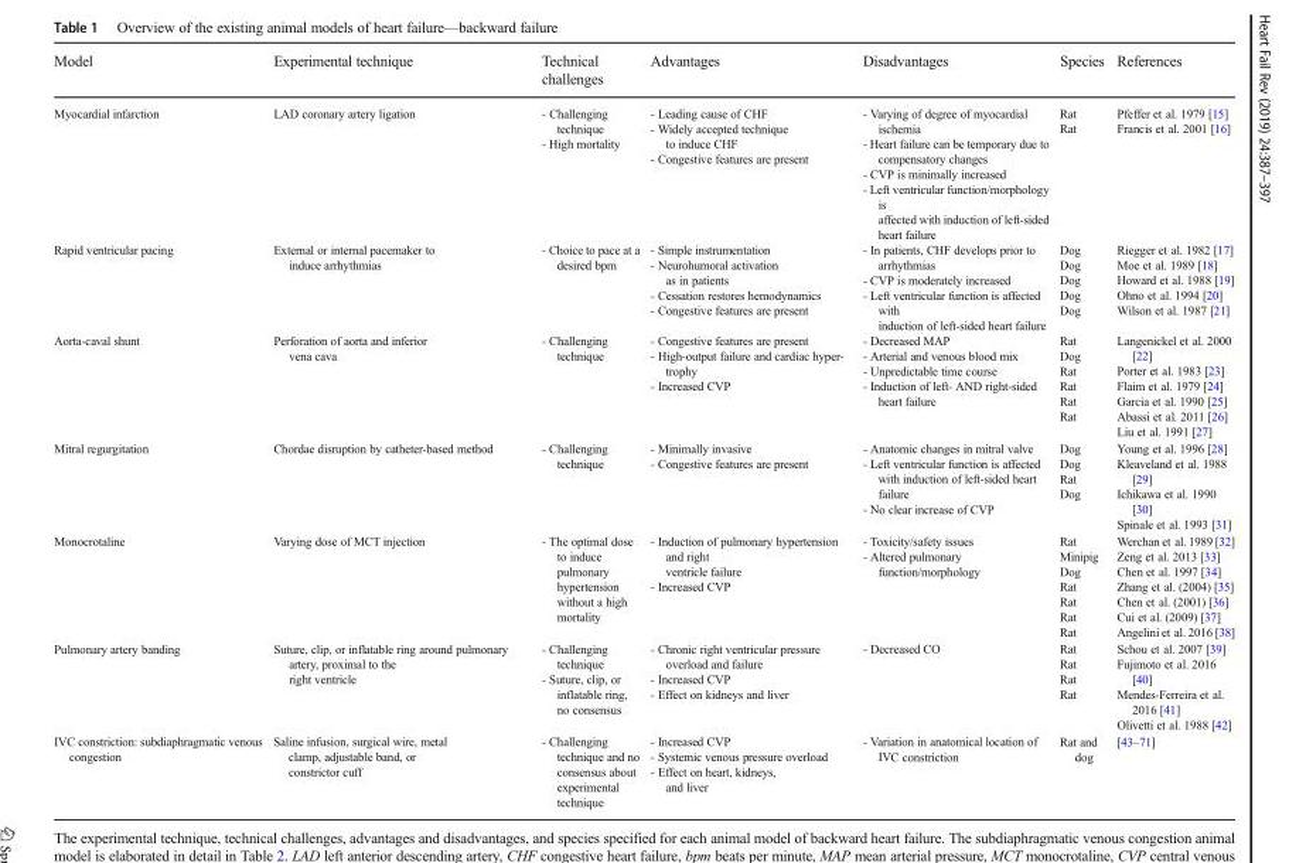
<table><thead><tr><td>Model</td><td>Experimental technique</td><td>Technical challenges</td><td>Advantages</td><td>Disadvantages</td><td>Species</td><td>References</td></tr></thead><tbody><tr><td>Myocardial infarction</td><td>LAD coronary artery ligation</td><td>- Challenging technique - High mortality</td><td>- Leading cause of CHF - Widely accepted technique to induce CHF - Congestive features are present</td><td>- Varying of degree of myocardial ischemia - Heart failure can be temporary due to compensatory changes - CVP is minimally increased - Left ventricular function/morphology is affected with induction of left-sided heart failure</td><td>Rat Rat</td><td>Pfeffer et al. 1979 [15] Francis et al. 2001 [16]</td></tr><tr><td>Rapid ventricular pacing</td><td>External or internal pacemaker to induce arrhythmias</td><td>- Choice to pace at a desired bpm</td><td>- Simple instrumentation - Neurohumoral activation as in patients - Cessation restores hemodynamics - Congestive features are present</td><td>- In patients, CHF develops prior to arrhythmias - CVP is moderately increased - Left ventricular function is affected with induction of left-sided heart failure</td><td>Dog Dog Dog Dog Dog</td><td>Riegger et al. 1982 [17] Moe et al. 1989 [18] Howard et al. 1988 [19] Ohno et al. 1994 [20] Wilson et al. 1987 [21]</td></tr><tr><td>Aorta-caval shunt</td><td>Perforation of aorta and inferior vena cava</td><td>- Challenging technique</td><td>- Congestive features are present - High-output failure and cardiac hyper- trophy - Increased CVP</td><td>- Decreased MAP - Arterial and venous blood mix - Unpredictable time course - Induction of left- AND right-sided heart failure</td><td>Rat Dog Rat Rat Rat Rat</td><td>Langenickel et al. 2000 [22] Porter et al. 1983 [23] Flaim et al. 1979 [24] Garcia et al. 1990 [25] Abassi et al. 2011 [26] Liu et al. 1991 [27]</td></tr><tr><td>Mitral regurgitation</td><td>Chordae disruption by catheter-based method</td><td>- Challenging technique</td><td>- Minimally invasive - Congestive features are present</td><td>- Anatomic changes in mitral valve - Left ventricular function is affected with induction of left-sided heart failure - No clear increase of CVP</td><td>Dog Dog Rat Dog</td><td>Young et al. 1996 [28] Kleaveland et al. 1988 [29] Ichikawa et al. 1990 [30] Spinale et al. 1993 [31]</td></tr><tr><td>Monocrotaline</td><td>Varying dose of MCT injection</td><td>- The optimal dose to induce pulmonary hypertension without a high mortality</td><td>- Induction of pulmonary hypertension and right ventricle failure - Increased CVP</td><td>- Toxicity/safety issues - Altered pulmonary function/morphology</td><td>Rat Minipig Dog Rat Rat Rat Rat</td><td>Werchan et al. 1989 [32] Zeng et al. 2013 [33] Chen et al. 1997 [34] Zhang et al. (2004) [35] Chen et al. (2001) [36] Cui et al. (2009) [37] Angelini et al. 2016 [38]</td></tr><tr><td>Pulmonary artery banding</td><td>Suture, clip, or inflatable ring around pulmonary artery, proximal to the right ventricle</td><td>- Challenging technique - Suture, clip, or inflatable ring, no consensus</td><td>- Chronic right ventricular pressure overload and failure - Increased CVP - Effect on kidneys and liver</td><td>- Decreased CO</td><td>Rat Rat Rat Rat</td><td>Schou et al. 2007 [39] Fujimoto et al. 2016 [40] Mendes-Ferreira et al. 2016 [41] Olivetti et al. 1988 [42]</td></tr><tr><td>IVC constriction: subdiaphragmatic venous congestion</td><td>Saline infusion, surgical wire, metal clamp, adjustable band, or constrictor cuff</td><td>- Challenging technique and no consensus about experimental technique</td><td>- Increased CVP - Systemic venous pressure overload - Effect on heart, kidneys, and liver</td><td>- Variation in anatomical location of IVC constriction</td><td>Rat and dog</td><td>[43–71]</td></tr></tbody></table>